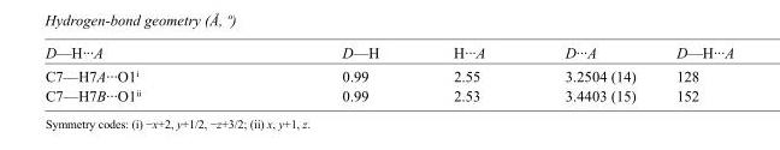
<table><tbody><tr><td>D—H···A</td><td>D—H</td><td>H···A</td><td>D···A</td><td>D—H···A</td></tr><tr><td>C7—H7A···O1<sup>i</sup></td><td>0.99</td><td>2.55</td><td>3.2504 (14)</td><td>128</td></tr><tr><td>C7—H7B···O1<sup>ii</sup></td><td>0.99</td><td>2.53</td><td>3.4403 (15)</td><td>152</td></tr></tbody></table>